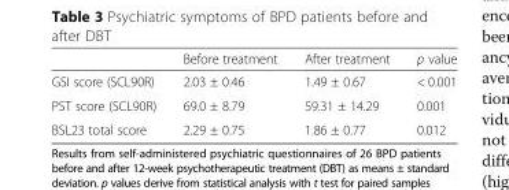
<table><thead><tr><td></td><td>Before treatment</td><td>After treatment</td><td>p value</td></tr></thead><tbody><tr><td>GSI score (SCL90R)</td><td>2.03 ± 0.46</td><td>1.49 ± 0.67</td><td>&lt; 0.001</td></tr><tr><td>PST score (SCL90R)</td><td>69.0 ± 8.79</td><td>59.31 ± 14.29</td><td>0.001</td></tr><tr><td>BSL23 total score</td><td>2.29 ± 0.75</td><td>1.86 ± 0.77</td><td>0.012</td></tr></tbody></table>